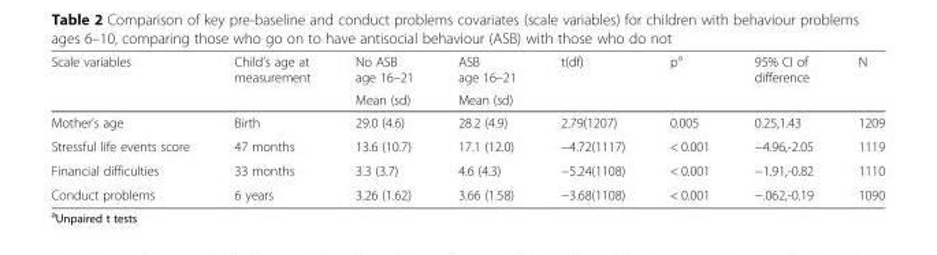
<table><thead><tr><td rowspan="2">Scale variables</td><td rowspan="2">Child’s age at measurement</td><td rowspan="2">No ASB age 16–21 Mean (sd)</td><td rowspan="2">ASB age 16–21 Mean (sd)</td><td rowspan="2">t(df)</td><td rowspan="2">p<sup>a</sup></td><td rowspan="2">95% CI of difference</td><td rowspan="2">N</td></tr><tr></tr></thead><tbody><tr><td>Mother’s age</td><td>Birth</td><td>29.0 (4.6)</td><td>28.2 (4.9)</td><td>2.79(1207)</td><td>0.005</td><td>0.25,1.43</td><td>1209</td></tr><tr><td>Stressful life events score</td><td>47 months</td><td>13.6 (10.7)</td><td>17.1 (12.0)</td><td>−4.72(1117)</td><td>&lt; 0.001</td><td>−4.96,-2.05</td><td>1119</td></tr><tr><td>Financial difficulties</td><td>33 months</td><td>3.3 (3.7)</td><td>4.6 (4.3)</td><td>−5.24(1108)</td><td>&lt; 0.001</td><td>−1.91,-0.82</td><td>1110</td></tr><tr><td>Conduct problems</td><td>6 years</td><td>3.26 (1.62)</td><td>3.66 (1.58)</td><td>−3.68(1108)</td><td>&lt; 0.001</td><td>−.062,-0.19</td><td>1090</td></tr></tbody></table>